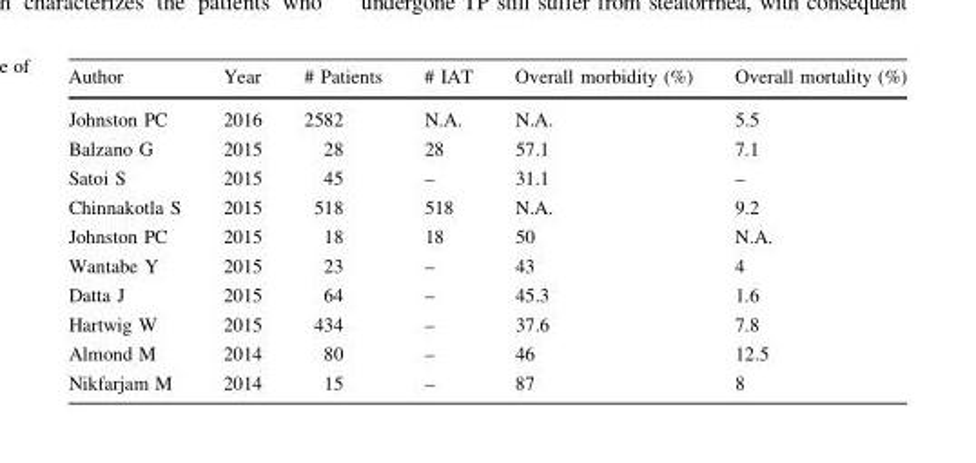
<table><thead><tr><td>Author</td><td>Year</td><td># Patients</td><td># IAT</td><td>Overall morbidity (%)</td><td>Overall mortality (%)</td></tr></thead><tbody><tr><td>Johnston PC</td><td>2016</td><td>2582</td><td>N.A.</td><td>N.A.</td><td>5.5</td></tr><tr><td>Balzano G</td><td>2015</td><td>28</td><td>28</td><td>57.1</td><td>7.1</td></tr><tr><td>Satoi S</td><td>2015</td><td>45</td><td>–</td><td>31.1</td><td>–</td></tr><tr><td>Chinnakotla S</td><td>2015</td><td>518</td><td>518</td><td>N.A.</td><td>9.2</td></tr><tr><td>Johnston PC</td><td>2015</td><td>18</td><td>18</td><td>50</td><td>N.A.</td></tr><tr><td>Wantabe Y</td><td>2015</td><td>23</td><td>–</td><td>43</td><td>4</td></tr><tr><td>Datta J</td><td>2015</td><td>64</td><td>–</td><td>45.3</td><td>1.6</td></tr><tr><td>Hartwig W</td><td>2015</td><td>434</td><td>–</td><td>37.6</td><td>7.8</td></tr><tr><td>Almond M</td><td>2014</td><td>80</td><td>–</td><td>46</td><td>12.5</td></tr><tr><td>Nikfarjam M</td><td>2014</td><td>15</td><td>–</td><td>87</td><td>8</td></tr></tbody></table>